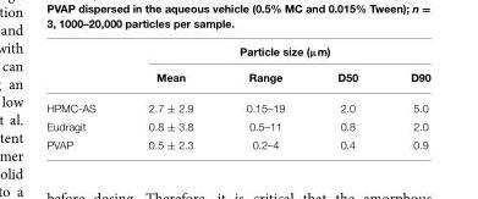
<table><thead><tr><td rowspan="2"></td><td colspan="4">Particle size (µm)</td></tr><tr><td>Mean</td><td>Range</td><td>D50</td><td>D90</td></tr></thead><tbody><tr><td>HPMC-AS</td><td>2.7 ± 2.9</td><td>0.15–19</td><td>2.0</td><td>5.0</td></tr><tr><td>Eudragit</td><td>0.8 ± 3.8</td><td>0.5–11</td><td>0.8</td><td>2.0</td></tr><tr><td>PVAP</td><td>0.5 ± 2.3</td><td>0.2–4</td><td>0.4</td><td>0.9</td></tr></tbody></table>